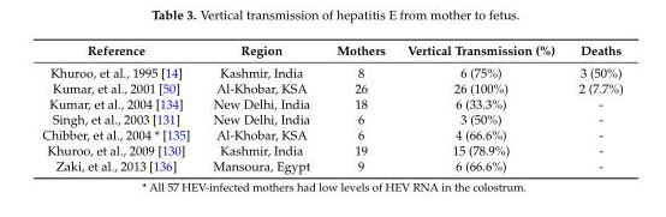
<table><thead><tr><td>Reference</td><td>Region</td><td>Mothers</td><td>Vertical Transmission (%)</td><td>Deaths</td></tr></thead><tbody><tr><td>Khuroo, et al., 1995 [14]</td><td>Kashmir, India</td><td>8</td><td>6 (75%)</td><td>3 (50%)</td></tr><tr><td>Kumar, et al., 2001 [50]</td><td>Al-Khobar, KSA</td><td>26</td><td>26 (100%)</td><td>2 (7.7%)</td></tr><tr><td>Kumar, et al., 2004 [134]</td><td>New Delhi, India</td><td>18</td><td>6 (33.3%)</td><td>-</td></tr><tr><td>Singh, et al., 2003 [131]</td><td>New Delhi, India</td><td>6</td><td>3 (50%)</td><td>-</td></tr><tr><td>Chibber, et al., 2004 * [135]</td><td>Al-Khobar, KSA</td><td>6</td><td>4 (66.6%)</td><td>-</td></tr><tr><td>Khuroo, et al., 2009 [130]</td><td>Kashmir, India</td><td>19</td><td>15 (78.9%)</td><td>-</td></tr><tr><td>Zaki, et al., 2013 [136]</td><td>Mansoura, Egypt</td><td>9</td><td>6 (66.6%)</td><td>-</td></tr></tbody></table>